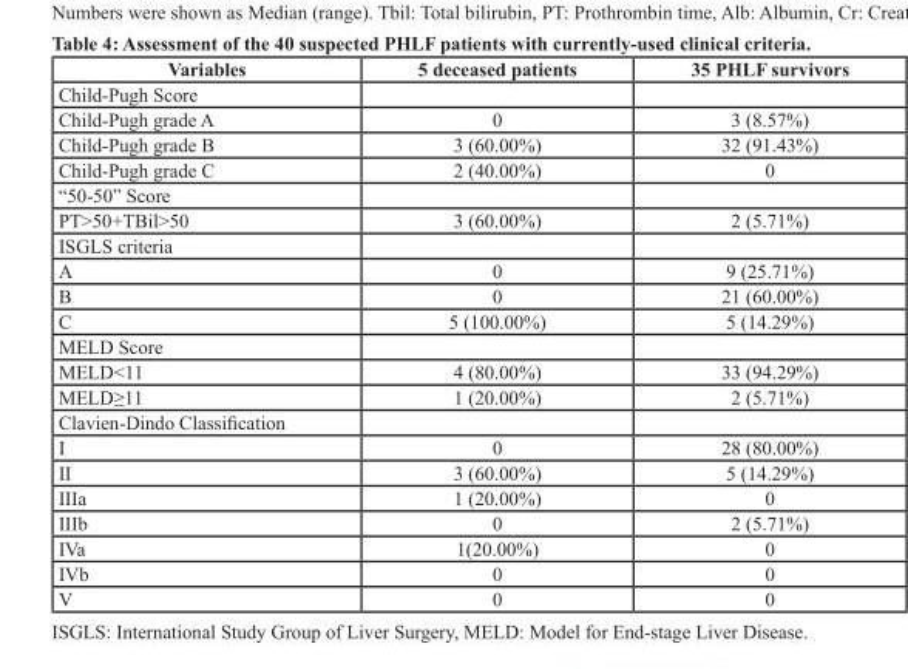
<table><thead><tr><td>Variables</td><td>5 deceased patients</td><td>35 PHLF survivors</td></tr></thead><tbody><tr><td colspan="3">Child-Pugh Score</td></tr><tr><td>Child-Pugh grade A</td><td>0</td><td>3 (8.57%)</td></tr><tr><td>Child-Pugh grade B</td><td>3 (60.00%)</td><td>32 (91.43%)</td></tr><tr><td>Child-Pugh grade C</td><td>2 (40.00%)</td><td>0</td></tr><tr><td colspan="3">“50-50” Score</td></tr><tr><td>PT&gt;50+TBil&gt;50</td><td>3 (60.00%)</td><td>2 (5.71%)</td></tr><tr><td colspan="3">ISGLS criteria</td></tr><tr><td>A</td><td>0</td><td>9 (25.71%)</td></tr><tr><td>B</td><td>0</td><td>21 (60.00%)</td></tr><tr><td>C</td><td>5 (100.00%)</td><td>5 (14.29%)</td></tr><tr><td colspan="3">MELD Score</td></tr><tr><td>MELD&lt;11</td><td>4 (80.00%)</td><td>33 (94.29%)</td></tr><tr><td>MELD≥11</td><td>1 (20.00%)</td><td>2 (5.71%)</td></tr><tr><td colspan="3">Clavien-Dindo Classification</td></tr><tr><td>I</td><td>0</td><td>28 (80.00%)</td></tr><tr><td>II</td><td>3 (60.00%)</td><td>5 (14.29%)</td></tr><tr><td>IIIa</td><td>1 (20.00%)</td><td>0</td></tr><tr><td>IIIb</td><td>0</td><td>2 (5.71%)</td></tr><tr><td>IVa</td><td>1(20.00%)</td><td>0</td></tr><tr><td>IVb</td><td>0</td><td>0</td></tr><tr><td>V</td><td>0</td><td>0</td></tr></tbody></table>